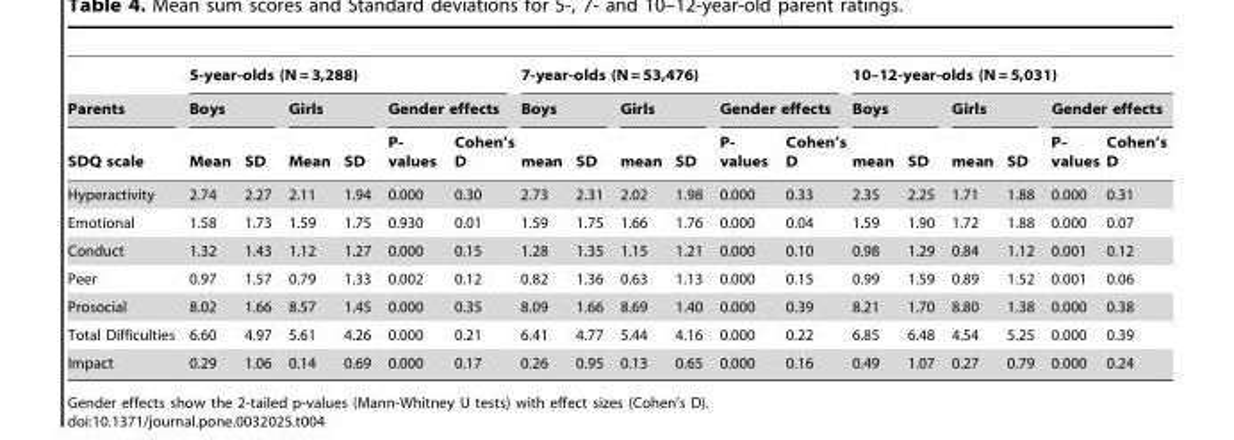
<table><thead><tr><td rowspan="3">Parents SDQ scale</td><td colspan="6">5-year-olds (N = 3,288)</td><td colspan="6">7-year-olds (N = 53,476)</td><td colspan="6">10–12-year-olds (N = 5,031)</td></tr><tr><td colspan="2">Boys</td><td colspan="2">Girls</td><td colspan="2">Gender effects</td><td colspan="2">Boys</td><td colspan="2">Girls</td><td colspan="2">Gender effects</td><td colspan="2">Boys</td><td colspan="2">Girls</td><td colspan="2">Gender effects</td></tr><tr><td>Mean</td><td>SD</td><td>Mean</td><td>SD</td><td>P- values</td><td>Cohen’s D</td><td>mean</td><td>SD</td><td>mean</td><td>SD</td><td>P- values</td><td>Cohen’s D</td><td>mean</td><td>SD</td><td>mean</td><td>SD</td><td>P- values</td><td>Cohen’s D</td></tr></thead><tbody><tr><td>Hyperactivity</td><td>2.74</td><td>2.27</td><td>2.11</td><td>1.94</td><td>0.000</td><td>0.30</td><td>2.73</td><td>2.31</td><td>2.02</td><td>1.98</td><td>0.000</td><td>0.33</td><td>2.35</td><td>2.25</td><td>1.71</td><td>1.88</td><td>0.000</td><td>0.31</td></tr><tr><td>Emotional</td><td>1.58</td><td>1.73</td><td>1.59</td><td>1.75</td><td>0.930</td><td>0.01</td><td>1.59</td><td>1.75</td><td>1.66</td><td>1.76</td><td>0.000</td><td>0.04</td><td>1.59</td><td>1.90</td><td>1.72</td><td>1.88</td><td>0.000</td><td>0.07</td></tr><tr><td>Conduct</td><td>1.32</td><td>1.43</td><td>1.12</td><td>1.27</td><td>0.000</td><td>0.15</td><td>1.28</td><td>1.35</td><td>1.15</td><td>1.21</td><td>0.000</td><td>0.10</td><td>0.98</td><td>1.29</td><td>0.84</td><td>1.12</td><td>0.001</td><td>0.12</td></tr><tr><td>Peer</td><td>0.97</td><td>1.57</td><td>0.79</td><td>1.33</td><td>0.002</td><td>0.12</td><td>0.82</td><td>1.36</td><td>0.63</td><td>1.13</td><td>0.000</td><td>0.15</td><td>0.99</td><td>1.59</td><td>0.89</td><td>1.52</td><td>0.001</td><td>0.06</td></tr><tr><td>Prosocial</td><td>8.02</td><td>1.66</td><td>8.57</td><td>1.45</td><td>0.000</td><td>0.35</td><td>8.09</td><td>1.66</td><td>8.69</td><td>1.40</td><td>0.000</td><td>0.39</td><td>8.21</td><td>1.70</td><td>8.80</td><td>1.38</td><td>0.000</td><td>0.38</td></tr><tr><td>Total Difficulties</td><td>6.60</td><td>4.97</td><td>5.61</td><td>4.26</td><td>0.000</td><td>0.21</td><td>6.41</td><td>4.77</td><td>5.44</td><td>4.16</td><td>0.000</td><td>0.22</td><td>6.85</td><td>6.48</td><td>4.54</td><td>5.25</td><td>0.000</td><td>0.39</td></tr><tr><td>Impact</td><td>0.29</td><td>1.06</td><td>0.14</td><td>0.69</td><td>0.000</td><td>0.17</td><td>0.26</td><td>0.95</td><td>0.13</td><td>0.65</td><td>0.000</td><td>0.16</td><td>0.49</td><td>1.07</td><td>0.27</td><td>0.79</td><td>0.000</td><td>0.24</td></tr></tbody></table>